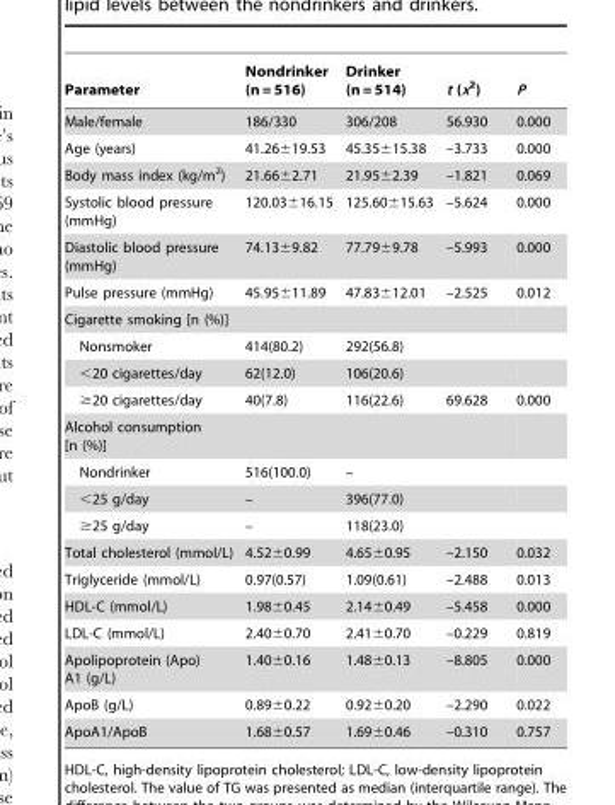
<table><thead><tr><td>Parameter</td><td>Nondrinker (n = 516)</td><td>Drinker (n = 514)</td><td>t (x<sup>2</sup>)</td><td>P</td></tr></thead><tbody><tr><td>Male/female</td><td>186/330</td><td>306/208</td><td>56.930</td><td>0.000</td></tr><tr><td>Age (years)</td><td>41.26±19.53</td><td>45.35±15.38</td><td>–3.733</td><td>0.000</td></tr><tr><td>Body mass index (kg/m<sup>2</sup>)</td><td>21.66±2.71</td><td>21.95±2.39</td><td>–1.821</td><td>0.069</td></tr><tr><td>Systolic blood pressure (mmHg)</td><td>120.03±16.15</td><td>125.60±15.63</td><td>–5.624</td><td>0.000</td></tr><tr><td>Diastolic blood pressure (mmHg)</td><td>74.13±9.82</td><td>77.79±9.78</td><td>–5.993</td><td>0.000</td></tr><tr><td>Pulse pressure (mmHg)</td><td>45.95±11.89</td><td>47.83±12.01</td><td>–2.525</td><td>0.012</td></tr><tr><td colspan="5">Cigarette smoking [n (%)]</td></tr><tr><td>Nonsmoker</td><td>414(80.2)</td><td>292(56.8)</td><td></td><td></td></tr><tr><td>&lt;20 cigarettes/day</td><td>62(12.0)</td><td>106(20.6)</td><td></td><td></td></tr><tr><td>≥20 cigarettes/day</td><td>40(7.8)</td><td>116(22.6)</td><td>69.628</td><td>0.000</td></tr><tr><td colspan="5">Alcohol consumption [n (%)]</td></tr><tr><td>Nondrinker</td><td>516(100.0)</td><td>–</td><td></td><td></td></tr><tr><td>&lt;25 g/day</td><td>–</td><td>396(77.0)</td><td></td><td></td></tr><tr><td>≥25 g/day</td><td>–</td><td>118(23.0)</td><td></td><td></td></tr><tr><td>Total cholesterol (mmol/L)</td><td>4.52±0.99</td><td>4.65±0.95</td><td>–2.150</td><td>0.032</td></tr><tr><td>Triglyceride (mmol/L)</td><td>0.97(0.57)</td><td>1.09(0.61)</td><td>–2.488</td><td>0.013</td></tr><tr><td>HDL-C (mmol/L)</td><td>1.98±0.45</td><td>2.14±0.49</td><td>–5.458</td><td>0.000</td></tr><tr><td>LDL-C (mmol/L)</td><td>2.40±0.70</td><td>2.41±0.70</td><td>–0.229</td><td>0.819</td></tr><tr><td>Apolipoprotein (Apo) A1 (g/L)</td><td>1.40±0.16</td><td>1.48±0.13</td><td>–8.805</td><td>0.000</td></tr><tr><td>ApoB (g/L)</td><td>0.89±0.22</td><td>0.92±0.20</td><td>–2.290</td><td>0.022</td></tr><tr><td>ApoA1/ApoB</td><td>1.68±0.57</td><td>1.69±0.46</td><td>–0.310</td><td>0.757</td></tr></tbody></table>